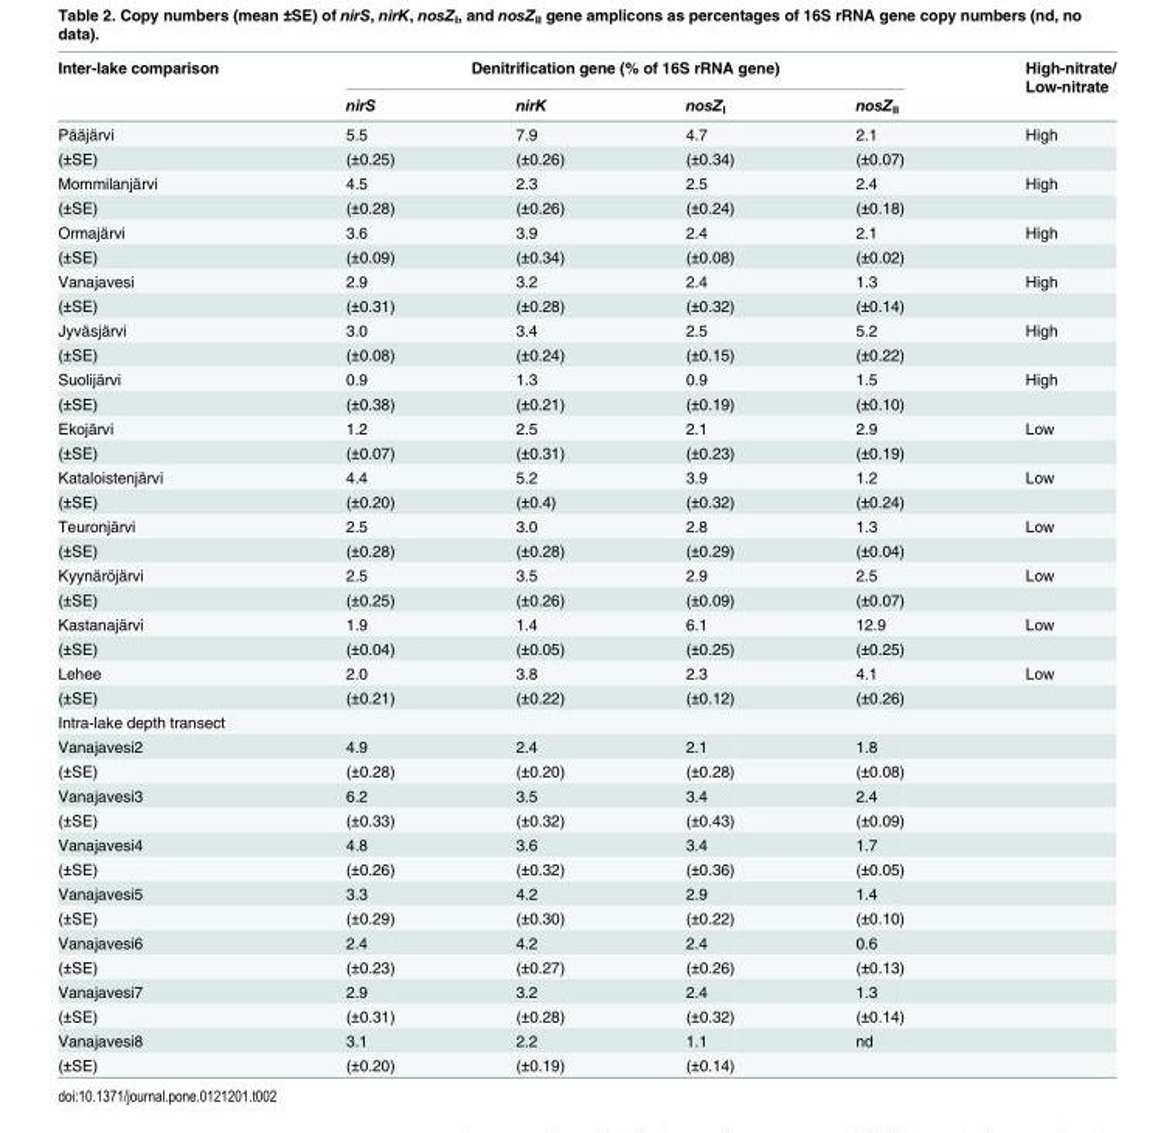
<table><thead><tr><td rowspan="3">Inter-lake comparison</td><td rowspan="2" colspan="4">Denitrification gene (% of 16S rRNA gene)</td><td rowspan="3">High-nitrate/ Low-nitrate</td></tr><tr></tr><tr><td>nirS</td><td>nirK</td><td>nosZ<sub>I</sub></td><td>nosZ<sub>II</sub></td></tr></thead><tbody><tr><td>Pääjärvi</td><td>5.5</td><td>7.9</td><td>4.7</td><td>2.1</td><td>High</td></tr><tr><td>(±SE)</td><td>(±0.25)</td><td>(±0.26)</td><td>(±0.34)</td><td>(±0.07)</td><td></td></tr><tr><td>Mommilanjärvi</td><td>4.5</td><td>2.3</td><td>2.5</td><td>2.4</td><td>High</td></tr><tr><td>(±SE)</td><td>(±0.28)</td><td>(±0.26)</td><td>(±0.24)</td><td>(±0.18)</td><td></td></tr><tr><td>Ormajärvi</td><td>3.6</td><td>3.9</td><td>2.4</td><td>2.1</td><td>High</td></tr><tr><td>(±SE)</td><td>(±0.09)</td><td>(±0.34)</td><td>(±0.08)</td><td>(±0.02)</td><td></td></tr><tr><td>Vanajavesi</td><td>2.9</td><td>3.2</td><td>2.4</td><td>1.3</td><td>High</td></tr><tr><td>(±SE)</td><td>(±0.31)</td><td>(±0.28)</td><td>(±0.32)</td><td>(±0.14)</td><td></td></tr><tr><td>Jyväsjärvi</td><td>3.0</td><td>3.4</td><td>2.5</td><td>5.2</td><td>High</td></tr><tr><td>(±SE)</td><td>(±0.08)</td><td>(±0.24)</td><td>(±0.15)</td><td>(±0.22)</td><td></td></tr><tr><td>Suolijärvi</td><td>0.9</td><td>1.3</td><td>0.9</td><td>1.5</td><td>High</td></tr><tr><td>(±SE)</td><td>(±0.38)</td><td>(±0.21)</td><td>(±0.19)</td><td>(±0.10)</td><td></td></tr><tr><td>Ekojärvi</td><td>1.2</td><td>2.5</td><td>2.1</td><td>2.9</td><td>Low</td></tr><tr><td>(±SE)</td><td>(±0.07)</td><td>(±0.31)</td><td>(±0.23)</td><td>(±0.19)</td><td></td></tr><tr><td>Kataloistenjärvi</td><td>4.4</td><td>5.2</td><td>3.9</td><td>1.2</td><td>Low</td></tr><tr><td>(±SE)</td><td>(±0.20)</td><td>(±0.4)</td><td>(±0.32)</td><td>(±0.24)</td><td></td></tr><tr><td>Teuronjärvi</td><td>2.5</td><td>3.0</td><td>2.8</td><td>1.3</td><td>Low</td></tr><tr><td>(±SE)</td><td>(±0.28)</td><td>(±0.28)</td><td>(±0.29)</td><td>(±0.04)</td><td></td></tr><tr><td>Kyynäröjärvi</td><td>2.5</td><td>3.5</td><td>2.9</td><td>2.5</td><td>Low</td></tr><tr><td>(±SE)</td><td>(±0.25)</td><td>(±0.26)</td><td>(±0.09)</td><td>(±0.07)</td><td></td></tr><tr><td>Kastanajärvi</td><td>1.9</td><td>1.4</td><td>6.1</td><td>12.9</td><td>Low</td></tr><tr><td>(±SE)</td><td>(±0.04)</td><td>(±0.05)</td><td>(±0.25)</td><td>(±0.25)</td><td></td></tr><tr><td>Lehee</td><td>2.0</td><td>3.8</td><td>2.3</td><td>4.1</td><td>Low</td></tr><tr><td>(±SE)</td><td>(±0.21)</td><td>(±0.22)</td><td>(±0.12)</td><td>(±0.26)</td><td></td></tr><tr><td colspan="6">Intra-lake depth transect</td></tr><tr><td>Vanajavesi2</td><td>4.9</td><td>2.4</td><td>2.1</td><td>1.8</td><td></td></tr><tr><td>(±SE)</td><td>(±0.28)</td><td>(±0.20)</td><td>(±0.28)</td><td>(±0.08)</td><td></td></tr><tr><td>Vanajavesi3</td><td>6.2</td><td>3.5</td><td>3.4</td><td>2.4</td><td></td></tr><tr><td>(±SE)</td><td>(±0.33)</td><td>(±0.32)</td><td>(±0.43)</td><td>(±0.09)</td><td></td></tr><tr><td>Vanajavesi4</td><td>4.8</td><td>3.6</td><td>3.4</td><td>1.7</td><td></td></tr><tr><td>(±SE)</td><td>(±0.26)</td><td>(±0.32)</td><td>(±0.36)</td><td>(±0.05)</td><td></td></tr><tr><td>Vanajavesi5</td><td>3.3</td><td>4.2</td><td>2.9</td><td>1.4</td><td></td></tr><tr><td>(±SE)</td><td>(±0.29)</td><td>(±0.30)</td><td>(±0.22)</td><td>(±0.10)</td><td></td></tr><tr><td>Vanajavesi6</td><td>2.4</td><td>4.2</td><td>2.4</td><td>0.6</td><td></td></tr><tr><td>(±SE)</td><td>(±0.23)</td><td>(±0.27)</td><td>(±0.26)</td><td>(±0.13)</td><td></td></tr><tr><td>Vanajavesi7</td><td>2.9</td><td>3.2</td><td>2.4</td><td>1.3</td><td></td></tr><tr><td>(±SE)</td><td>(±0.31)</td><td>(±0.28)</td><td>(±0.32)</td><td>(±0.14)</td><td></td></tr><tr><td>Vanajavesi8</td><td>3.1</td><td>2.2</td><td>1.1</td><td>nd</td><td></td></tr><tr><td>(±SE)</td><td>(±0.20)</td><td>(±0.19)</td><td>(±0.14)</td><td></td><td></td></tr></tbody></table>